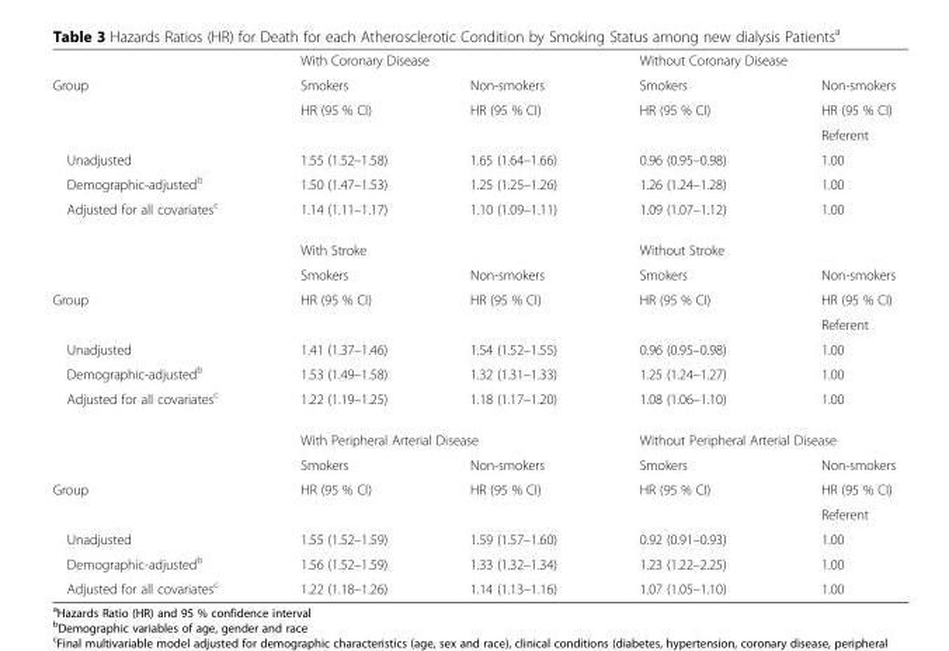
<table><thead><tr><td rowspan="2">Group</td><td colspan="2">With Coronary Disease</td><td colspan="2">Without Coronary Disease</td></tr><tr><td>Smokers</td><td>Non-smokers</td><td>Smokers</td><td>Non-smokers</td></tr></thead><tbody><tr><td></td><td>HR (95 % CI)</td><td>HR (95 % CI)</td><td>HR (95 % CI)</td><td>HR (95 % CI)</td></tr><tr><td></td><td></td><td></td><td></td><td>Referent</td></tr><tr><td>Unadjusted</td><td>1.55 (1.52–1.58)</td><td>1.65 (1.64–1.66)</td><td>0.96 (0.95–0.98)</td><td>1.00</td></tr><tr><td>Demographic-adjusted<sup>b</sup></td><td>1.50 (1.47–1.53)</td><td>1.25 (1.25–1.26)</td><td>1.26 (1.24–1.28)</td><td>1.00</td></tr><tr><td rowspan="3">Adjusted for all covariates<sup>c</sup></td><td>1.14 (1.11–1.17)</td><td>1.10 (1.09–1.11)</td><td>1.09 (1.07–1.12)</td><td>1.00</td></tr><tr><td colspan="2">With Stroke</td><td colspan="2">Without Stroke</td></tr><tr><td>Smokers</td><td>Non-smokers</td><td>Smokers</td><td>Non-smokers</td></tr><tr><td rowspan="2">Group</td><td>HR (95 % CI)</td><td>HR (95 % CI)</td><td>HR (95 % CI)</td><td>HR (95 % CI)</td></tr><tr><td></td><td></td><td></td><td>Referent</td></tr><tr><td>Unadjusted</td><td>1.41 (1.37–1.46)</td><td>1.54 (1.52–1.55)</td><td>0.96 (0.95–0.98)</td><td>1.00</td></tr><tr><td>Demographic-adjusted<sup>b</sup></td><td>1.53 (1.49–1.58)</td><td>1.32 (1.31–1.33)</td><td>1.25 (1.24–1.27)</td><td>1.00</td></tr><tr><td rowspan="3">Adjusted for all covariates<sup>c</sup></td><td>1.22 (1.19–1.25)</td><td>1.18 (1.17–1.20)</td><td>1.08 (1.06–1.10)</td><td>1.00</td></tr><tr><td colspan="2">With Peripheral Arterial Disease</td><td colspan="2">Without Peripheral Arterial Disease</td></tr><tr><td>Smokers</td><td>Non-smokers</td><td>Smokers</td><td>Non-smokers</td></tr><tr><td rowspan="2">Group</td><td>HR (95 % CI)</td><td>HR (95 % CI)</td><td>HR (95 % CI)</td><td>HR (95 % CI)</td></tr><tr><td></td><td></td><td></td><td>Referent</td></tr><tr><td>Unadjusted</td><td>1.55 (1.52–1.59)</td><td>1.59 (1.57–1.60)</td><td>0.92 (0.91–0.93)</td><td>1.00</td></tr><tr><td>Demographic-adjusted<sup>b</sup></td><td>1.56 (1.52–1.59)</td><td>1.33 (1.32–1.34)</td><td>1.23 (1.22–2.25)</td><td>1.00</td></tr><tr><td>Adjusted for all covariates<sup>c</sup></td><td>1.22 (1.18–1.26)</td><td>1.14 (1.13–1.16)</td><td>1.07 (1.05–1.10)</td><td>1.00</td></tr></tbody></table>